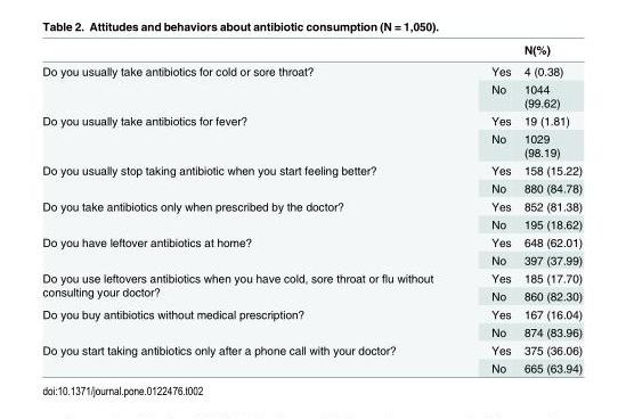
<table><thead><tr><td></td><td></td><td>N(%)</td></tr></thead><tbody><tr><td rowspan="2">Do you usually take antibiotics for cold or sore throat?</td><td>Yes</td><td>4 (0.38)</td></tr><tr><td>No</td><td>1044 (99.62)</td></tr><tr><td rowspan="2">Do you usually take antibiotics for fever?</td><td>Yes</td><td>19 (1.81)</td></tr><tr><td>No</td><td>1029 (98.19)</td></tr><tr><td rowspan="2">Do you usually stop taking antibiotic when you start feeling better?</td><td>Yes</td><td>158 (15.22)</td></tr><tr><td>No</td><td>880 (84.78)</td></tr><tr><td rowspan="2">Do you take antibiotics only when prescribed by the doctor?</td><td>Yes</td><td>852 (81.38)</td></tr><tr><td>No</td><td>195 (18.62)</td></tr><tr><td rowspan="2">Do you have leftover antibiotics at home?</td><td>Yes</td><td>648 (62.01)</td></tr><tr><td>No</td><td>397 (37.99)</td></tr><tr><td rowspan="2">Do you use leftovers antibiotics when you have cold, sore throat or flu without consulting your doctor?</td><td>Yes</td><td>185 (17.70)</td></tr><tr><td>No</td><td>860 (82.30)</td></tr><tr><td rowspan="2">Do you buy antibiotics without medical prescription?</td><td>Yes</td><td>167 (16.04)</td></tr><tr><td>No</td><td>874 (83.96)</td></tr><tr><td rowspan="2">Do you start taking antibiotics only after a phone call with your doctor?</td><td>Yes</td><td>375 (36.06)</td></tr><tr><td>No</td><td>665 (63.94)</td></tr></tbody></table>